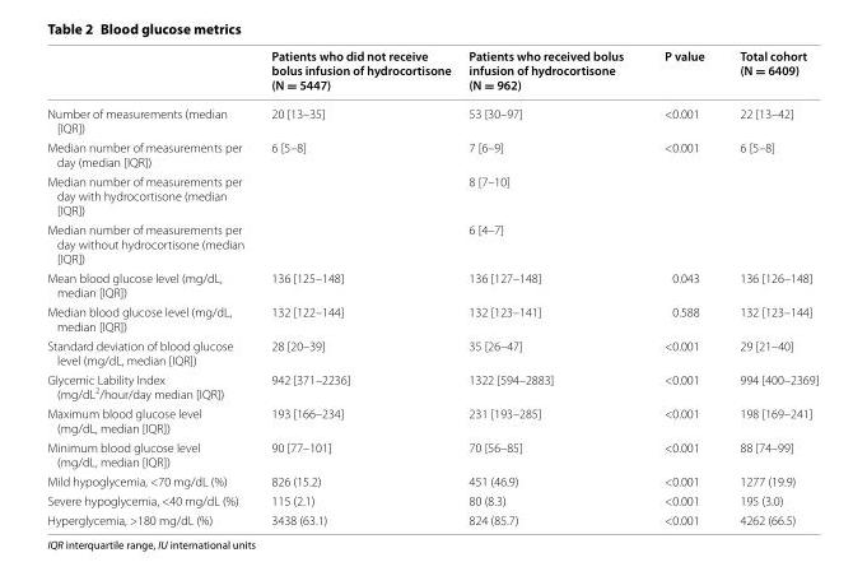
<table><thead><tr><td></td><td>Patients who did not receive bolus infusion of hydrocortisone (N = 5447)</td><td>Patients who received bolus infusion of hydrocortisone (N = 962)</td><td>P value</td><td>Total cohort (N = 6409)</td></tr></thead><tbody><tr><td>Number of measurements (median [IQR])</td><td>20 [13–35]</td><td>53 [30–97]</td><td>&lt;0.001</td><td>22 [13–42]</td></tr><tr><td>Median number of measurements per day (median [IQR])</td><td>6 [5–8]</td><td>7 [6–9]</td><td>&lt;0.001</td><td>6 [5–8]</td></tr><tr><td>Median number of measurements per day with hydrocortisone (median [IQR])</td><td></td><td>8 [7–10]</td><td></td><td></td></tr><tr><td>Median number of measurements per day without hydrocortisone (median [IQR])</td><td></td><td>6 [4–7]</td><td></td><td></td></tr><tr><td>Mean blood glucose level (mg/dL, median [IQR])</td><td>136 [125–148]</td><td>136 [127–148]</td><td>0.043</td><td>136 [126–148]</td></tr><tr><td>Median blood glucose level (mg/dL, median [IQR])</td><td>132 [122–144]</td><td>132 [123–141]</td><td>0.588</td><td>132 [123–144]</td></tr><tr><td>Standard deviation of blood glucose level (mg/dL, median [IQR])</td><td>28 [20–39]</td><td>35 [26–47]</td><td>&lt;0.001</td><td>29 [21–40]</td></tr><tr><td>Glycemic Lability Index (mg/dL<sup>2</sup>/hour/day median [IQR])</td><td>942 [371–2236]</td><td>1322 [594–2883]</td><td>&lt;0.001</td><td>994 [400–2369]</td></tr><tr><td>Maximum blood glucose level (mg/dL, median [IQR])</td><td>193 [166–234]</td><td>231 [193–285]</td><td>&lt;0.001</td><td>198 [169–241]</td></tr><tr><td>Minimum blood glucose level (mg/dL, median [IQR])</td><td>90 [77–101]</td><td>70 [56–85]</td><td>&lt;0.001</td><td>88 [74–99]</td></tr><tr><td>Mild hypoglycemia, &lt;70 mg/dL (%)</td><td>826 (15.2)</td><td>451 (46.9)</td><td>&lt;0.001</td><td>1277 (19.9)</td></tr><tr><td>Severe hypoglycemia, &lt;40 mg/dL (%)</td><td>115 (2.1)</td><td>80 (8.3)</td><td>&lt;0.001</td><td>195 (3.0)</td></tr><tr><td>Hyperglycemia, &gt;180 mg/dL (%)</td><td>3438 (63.1)</td><td>824 (85.7)</td><td>&lt;0.001</td><td>4262 (66.5)</td></tr></tbody></table>